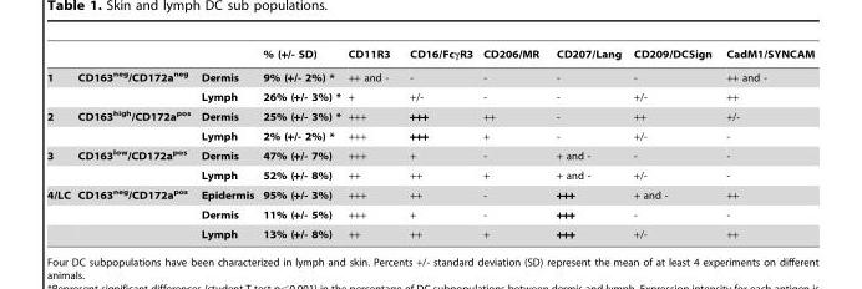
<table><thead><tr><td></td><td></td><td></td><td>% (+/- SD)</td><td>CD11R3</td><td>CD16/FcγR3</td><td>CD206/MR</td><td>CD207/Lang</td><td>CD209/DCSign</td><td>CadM1/SYNCAM</td></tr></thead><tbody><tr><td rowspan="2">1</td><td>CD163<sup>neg</sup>/CD172a<sup>neg</sup></td><td>Dermis</td><td>9% (+/- 2%) *</td><td>++ and -</td><td>-</td><td>-</td><td>-</td><td>-</td><td>++ and -</td></tr><tr><td></td><td>Lymph</td><td>26% (+/- 3%) *</td><td>+</td><td>+/-</td><td>-</td><td>-</td><td>+/-</td><td>++</td></tr><tr><td rowspan="2">2</td><td>CD163<sup>high</sup>/CD172a<sup>pos</sup></td><td>Dermis</td><td>25% (+/- 3%) *</td><td>+++</td><td>++++</td><td>++</td><td>-</td><td>++</td><td>+/-</td></tr><tr><td></td><td>Lymph</td><td>2% (+/- 2%) *</td><td>+++</td><td>++++</td><td>+</td><td>-</td><td>+/-</td><td>-</td></tr><tr><td rowspan="2">3</td><td>CD163<sup>low</sup>/CD172a<sup>pos</sup></td><td>Dermis</td><td>47% (+/- 7%)</td><td>+++</td><td>+</td><td>-</td><td>+ and -</td><td>-</td><td>-</td></tr><tr><td></td><td>Lymph</td><td>52% (+/- 8%)</td><td>++</td><td>++</td><td>+</td><td>+ and -</td><td>+/-</td><td>-</td></tr><tr><td rowspan="3">4/LC</td><td>CD163<sup>neg</sup>/CD172a<sup>pos</sup></td><td>Epidermis</td><td>95% (+/- 3%)</td><td>+++</td><td>++</td><td>-</td><td>+++</td><td>+ and -</td><td>++</td></tr><tr><td></td><td>Dermis</td><td>11% (+/- 5%)</td><td>+++</td><td>+</td><td>-</td><td>+++</td><td>-</td><td>-</td></tr><tr><td></td><td>Lymph</td><td>13% (+/- 8%)</td><td>++</td><td>++</td><td>+</td><td>++++</td><td>+/-</td><td>++</td></tr></tbody></table>